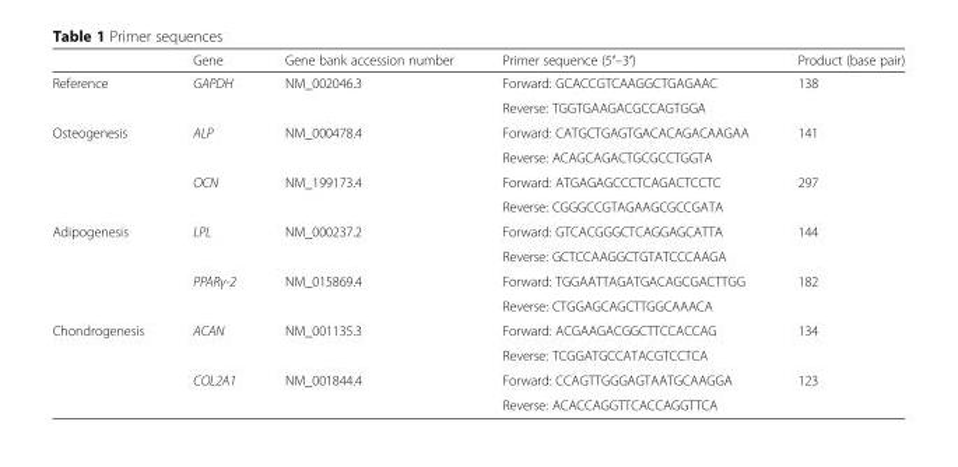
<table><thead><tr><td></td><td>Gene</td><td>Gene bank accession number</td><td>Primer sequence (5′–3′)</td><td>Product (base pair)</td></tr></thead><tbody><tr><td rowspan="2">Reference</td><td rowspan="2">GAPDH</td><td rowspan="2">NM_002046.3</td><td>Forward: GCACCGTCAAGGCTGAGAAC</td><td rowspan="2">138</td></tr><tr><td>Reverse: TGGTGAAGACGCCAGTGGA</td></tr><tr><td rowspan="4">Osteogenesis</td><td rowspan="2">ALP</td><td rowspan="2">NM_000478.4</td><td>Forward: CATGCTGAGTGACACAGACAAGAA</td><td rowspan="2">141</td></tr><tr><td>Reverse: ACAGCAGACTGCGCCTGGTA</td></tr><tr><td rowspan="2">OCN</td><td rowspan="2">NM_199173.4</td><td>Forward: ATGAGAGCCCTCAGACTCCTC</td><td rowspan="2">297</td></tr><tr><td>Reverse: CGGGCCGTAGAAGCGCCGATA</td></tr><tr><td rowspan="4">Adipogenesis</td><td rowspan="2">LPL</td><td rowspan="2">NM_000237.2</td><td>Forward: GTCACGGGCTCAGGAGCATTA</td><td rowspan="2">144</td></tr><tr><td>Reverse: GCTCCAAGGCTGTATCCCAAGA</td></tr><tr><td rowspan="2">PPARγ-2</td><td rowspan="2">NM_015869.4</td><td>Forward: TGGAATTAGATGACAGCGACTTGG</td><td rowspan="2">182</td></tr><tr><td>Reverse: CTGGAGCAGCTTGGCAAACA</td></tr><tr><td rowspan="4">Chondrogenesis</td><td rowspan="2">ACAN</td><td rowspan="2">NM_001135.3</td><td>Forward: ACGAAGACGGCTTCCACCAG</td><td rowspan="2">134</td></tr><tr><td>Reverse: TCGGATGCCATACGTCCTCA</td></tr><tr><td rowspan="2">COL2A1</td><td rowspan="2">NM_001844.4</td><td>Forward: CCAGTTGGGAGTAATGCAAGGA</td><td rowspan="2">123</td></tr><tr><td>Reverse: ACACCAGGTTCACCAGGTTCA</td></tr></tbody></table>